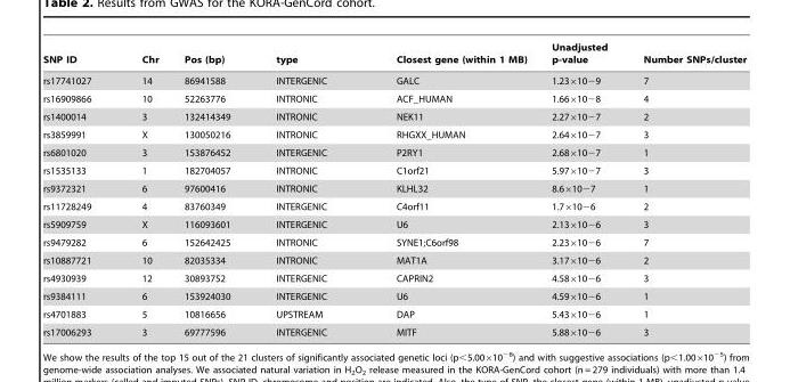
<table><thead><tr><td>SNP ID</td><td>Chr</td><td>Pos (bp)</td><td>type</td><td>Closest gene (within 1 MB)</td><td>Unadjusted p-value</td><td>Number SNPs/cluster</td></tr></thead><tbody><tr><td>rs17741027</td><td>14</td><td>86941588</td><td>INTERGENIC</td><td>GALC</td><td>1.23×10−9</td><td>7</td></tr><tr><td>rs16909866</td><td>10</td><td>52263776</td><td>INTRONIC</td><td>ACF_HUMAN</td><td>1.66×10−8</td><td>4</td></tr><tr><td>rs1400014</td><td>3</td><td>132414349</td><td>INTRONIC</td><td>NEK11</td><td>2.27×10−7</td><td>2</td></tr><tr><td>rs3859991</td><td>X</td><td>130050216</td><td>INTRONIC</td><td>RHGXX_HUMAN</td><td>2.64×10−7</td><td>3</td></tr><tr><td>rs6801020</td><td>3</td><td>153876452</td><td>INTERGENIC</td><td>P2RY1</td><td>2.68×10−7</td><td>1</td></tr><tr><td>rs1535133</td><td>1</td><td>182704057</td><td>INTRONIC</td><td>C1orf21</td><td>5.97×10−7</td><td>3</td></tr><tr><td>rs9372321</td><td>6</td><td>97600416</td><td>INTRONIC</td><td>KLHL32</td><td>8.6×10−7</td><td>1</td></tr><tr><td>rs11728249</td><td>4</td><td>83760349</td><td>INTERGENIC</td><td>C4orf11</td><td>1.7×10−6</td><td>2</td></tr><tr><td>rs5909759</td><td>X</td><td>116093601</td><td>INTERGENIC</td><td>U6</td><td>2.13×10−6</td><td>3</td></tr><tr><td>rs9479282</td><td>6</td><td>152642425</td><td>INTRONIC</td><td>SYNE1;C6orf98</td><td>2.23×10−6</td><td>7</td></tr><tr><td>rs10887721</td><td>10</td><td>82035334</td><td>INTRONIC</td><td>MAT1A</td><td>3.17×10−6</td><td>2</td></tr><tr><td>rs4930939</td><td>12</td><td>30893752</td><td>INTERGENIC</td><td>CAPRIN2</td><td>4.58×10−6</td><td>3</td></tr><tr><td>rs9384111</td><td>6</td><td>153924030</td><td>INTERGENIC</td><td>U6</td><td>4.59×10−6</td><td>1</td></tr><tr><td>rs4701883</td><td>5</td><td>10816656</td><td>UPSTREAM</td><td>DAP</td><td>5.43×10−6</td><td>1</td></tr><tr><td>rs17006293</td><td>3</td><td>69777596</td><td>INTERGENIC</td><td>MITF</td><td>5.88×10−6</td><td>3</td></tr></tbody></table>